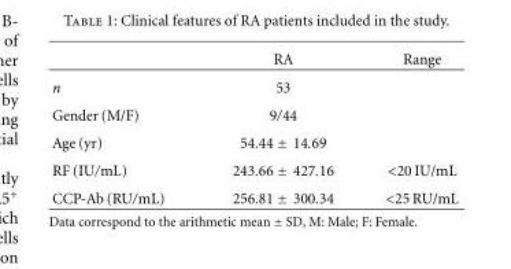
<table><thead><tr><td></td><td>RA</td><td>Range</td></tr></thead><tbody><tr><td>n</td><td>53</td><td></td></tr><tr><td>Gender (M/F)</td><td>9/44</td><td></td></tr><tr><td>Age (yr)</td><td>54.44 ± 14.69</td><td></td></tr><tr><td>RF (IU/mL)</td><td>243.66 ± 427.16</td><td>&lt;20 IU/mL</td></tr><tr><td>CCP-Ab (RU/mL)</td><td>256.81 ± 300.34</td><td>&lt;25 RU/mL</td></tr></tbody></table>